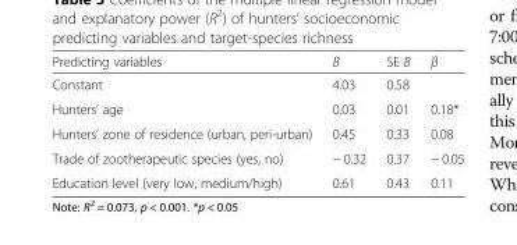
<table><thead><tr><td>Predicting variables</td><td>B</td><td>SE B</td><td>β</td></tr></thead><tbody><tr><td>Constant</td><td>4.03</td><td>0.58</td><td></td></tr><tr><td>Hunters’ age</td><td>0.03</td><td>0.01</td><td>0.18*</td></tr><tr><td>Hunters’ zone of residence (urban, peri-urban)</td><td>0.45</td><td>0.33</td><td>0.08</td></tr><tr><td>Trade of zootherapeutic species (yes, no)</td><td>− 0.32</td><td>0.37</td><td>− 0.05</td></tr><tr><td>Education level (very low, medium/high)</td><td>0.61</td><td>0.43</td><td>0.11</td></tr></tbody></table>